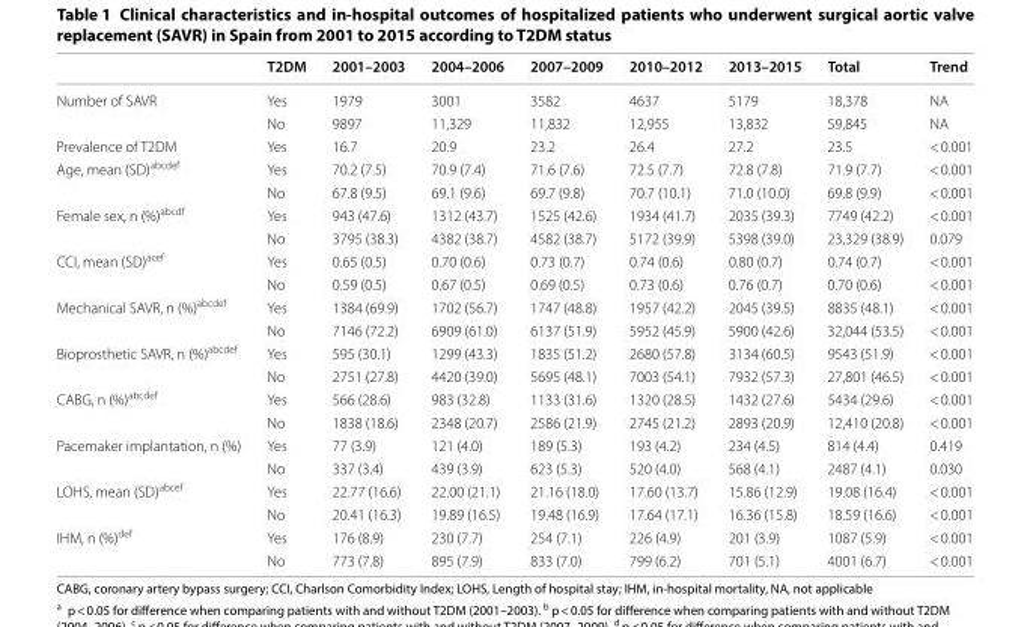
<table><thead><tr><td></td><td>T2DM</td><td>2001–2003</td><td>2004–2006</td><td>2007–2009</td><td>2010–2012</td><td>2013–2015</td><td>Total</td><td>Trend</td></tr></thead><tbody><tr><td rowspan="2">Number of SAVR</td><td>Yes</td><td>1979</td><td>3001</td><td>3582</td><td>4637</td><td>5179</td><td>18,378</td><td>NA</td></tr><tr><td>No</td><td>9897</td><td>11,329</td><td>11,832</td><td>12,955</td><td>13,832</td><td>59,845</td><td>NA</td></tr><tr><td>Prevalence of T2DM</td><td>Yes</td><td>16.7</td><td>20.9</td><td>23.2</td><td>26.4</td><td>27.2</td><td>23.5</td><td>&lt; 0.001</td></tr><tr><td rowspan="2">Age, mean (SD)<sup>abcdef</sup></td><td>Yes</td><td>70.2 (7.5)</td><td>70.9 (7.4)</td><td>71.6 (7.6)</td><td>72.5 (7.7)</td><td>72.8 (7.8)</td><td>71.9 (7.7)</td><td>&lt; 0.001</td></tr><tr><td>No</td><td>67.8 (9.5)</td><td>69.1 (9.6)</td><td>69.7 (9.8)</td><td>70.7 (10.1)</td><td>71.0 (10.0)</td><td>69.8 (9.9)</td><td>&lt; 0.001</td></tr><tr><td rowspan="2">Female sex, n (%)<sup>abcdf</sup></td><td>Yes</td><td>943 (47.6)</td><td>1312 (43.7)</td><td>1525 (42.6)</td><td>1934 (41.7)</td><td>2035 (39.3)</td><td>7749 (42.2)</td><td>&lt; 0.001</td></tr><tr><td>No</td><td>3795 (38.3)</td><td>4382 (38.7)</td><td>4582 (38.7)</td><td>5172 (39.9)</td><td>5398 (39.0)</td><td>23,329 (38.9)</td><td>0.079</td></tr><tr><td rowspan="2">CCI, mean (SD)<sup>acef</sup></td><td>Yes</td><td>0.65 (0.5)</td><td>0.70 (0.6)</td><td>0.73 (0.7)</td><td>0.74 (0.6)</td><td>0.80 (0.7)</td><td>0.74 (0.7)</td><td>&lt; 0.001</td></tr><tr><td>No</td><td>0.59 (0.5)</td><td>0.67 (0.5)</td><td>0.69 (0.5)</td><td>0.73 (0.6)</td><td>0.76 (0.7)</td><td>0.70 (0.6)</td><td>&lt; 0.001</td></tr><tr><td rowspan="2">Mechanical SAVR, n (%)<sup>abcdef</sup></td><td>Yes</td><td>1384 (69.9)</td><td>1702 (56.7)</td><td>1747 (48.8)</td><td>1957 (42.2)</td><td>2045 (39.5)</td><td>8835 (48.1)</td><td>&lt; 0.001</td></tr><tr><td>No</td><td>7146 (72.2)</td><td>6909 (61.0)</td><td>6137 (51.9)</td><td>5952 (45.9)</td><td>5900 (42.6)</td><td>32,044 (53.5)</td><td>&lt; 0.001</td></tr><tr><td rowspan="2">Bioprosthetic SAVR, n (%)<sup>abcdef</sup></td><td>Yes</td><td>595 (30.1)</td><td>1299 (43.3)</td><td>1835 (51.2)</td><td>2680 (57.8)</td><td>3134 (60.5)</td><td>9543 (51.9)</td><td>&lt; 0.001</td></tr><tr><td>No</td><td>2751 (27.8)</td><td>4420 (39.0)</td><td>5695 (48.1)</td><td>7003 (54.1)</td><td>7932 (57.3)</td><td>27,801 (46.5)</td><td>&lt; 0.001</td></tr><tr><td rowspan="2">CABG, n (%)<sup>abcdef</sup></td><td>Yes</td><td>566 (28.6)</td><td>983 (32.8)</td><td>1133 (31.6)</td><td>1320 (28.5)</td><td>1432 (27.6)</td><td>5434 (29.6)</td><td>&lt; 0.001</td></tr><tr><td>No</td><td>1838 (18.6)</td><td>2348 (20.7)</td><td>2586 (21.9)</td><td>2745 (21.2)</td><td>2893 (20.9)</td><td>12,410 (20.8)</td><td>&lt; 0.001</td></tr><tr><td rowspan="2">Pacemaker implantation, n (%)</td><td>Yes</td><td>77 (3.9)</td><td>121 (4.0)</td><td>189 (5.3)</td><td>193 (4.2)</td><td>234 (4.5)</td><td>814 (4.4)</td><td>0.419</td></tr><tr><td>No</td><td>337 (3.4)</td><td>439 (3.9)</td><td>623 (5.3)</td><td>520 (4.0)</td><td>568 (4.1)</td><td>2487 (4.1)</td><td>0.030</td></tr><tr><td rowspan="2">LOHS, mean (SD)<sup>abcef</sup></td><td>Yes</td><td>22.77 (16.6)</td><td>22.00 (21.1)</td><td>21.16 (18.0)</td><td>17.60 (13.7)</td><td>15.86 (12.9)</td><td>19.08 (16.4)</td><td>&lt; 0.001</td></tr><tr><td>No</td><td>20.41 (16.3)</td><td>19.89 (16.5)</td><td>19.48 (16.9)</td><td>17.64 (17.1)</td><td>16.36 (15.8)</td><td>18.59 (16.6)</td><td>&lt; 0.001</td></tr><tr><td rowspan="2">IHM, n (%)<sup>def</sup></td><td>Yes</td><td>176 (8.9)</td><td>230 (7.7)</td><td>254 (7.1)</td><td>226 (4.9)</td><td>201 (3.9)</td><td>1087 (5.9)</td><td>&lt; 0.001</td></tr><tr><td>No</td><td>773 (7.8)</td><td>895 (7.9)</td><td>833 (7.0)</td><td>799 (6.2)</td><td>701 (5.1)</td><td>4001 (6.7)</td><td>&lt; 0.001</td></tr></tbody></table>